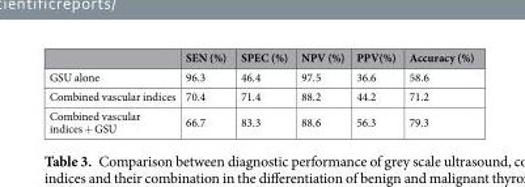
<table><thead><tr><td></td><td>SEN (%)</td><td>SPEC (%)</td><td>NPV (%)</td><td>PPV(%)</td><td>Accuracy (%)</td></tr></thead><tbody><tr><td>GSU alone</td><td>96.3</td><td>46.4</td><td>97.5</td><td>36.6</td><td>58.6</td></tr><tr><td>Combined vascular indices</td><td>70.4</td><td>71.4</td><td>88.2</td><td>44.2</td><td>71.2</td></tr><tr><td>Combined vascular indices + GSU</td><td>66.7</td><td>83.3</td><td>88.6</td><td>56.3</td><td>79.3</td></tr></tbody></table>